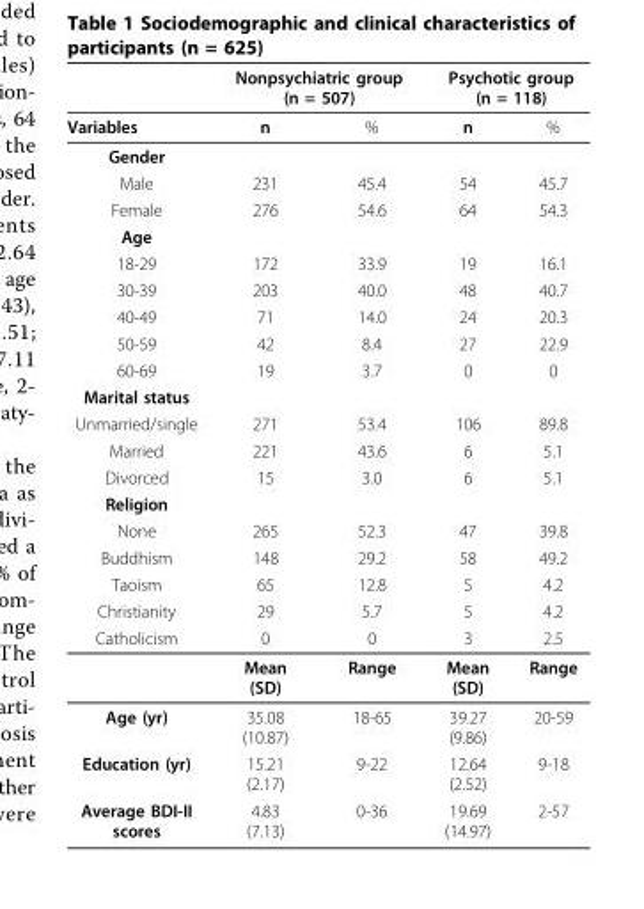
<table><thead><tr><td rowspan="2">Variables</td><td colspan="2">Nonpsychiatric group (n = 507)</td><td colspan="2">Psychotic group (n = 118)</td></tr><tr><td>n</td><td>%</td><td>n</td><td>%</td></tr></thead><tbody><tr><td colspan="5">Gender</td></tr><tr><td>Male</td><td>231</td><td>45.4</td><td>54</td><td>45.7</td></tr><tr><td>Female</td><td>276</td><td>54.6</td><td>64</td><td>54.3</td></tr><tr><td colspan="5">Age</td></tr><tr><td>18-29</td><td>172</td><td>33.9</td><td>19</td><td>16.1</td></tr><tr><td>30-39</td><td>203</td><td>40.0</td><td>48</td><td>40.7</td></tr><tr><td>40-49</td><td>71</td><td>14.0</td><td>24</td><td>20.3</td></tr><tr><td>50-59</td><td>42</td><td>8.4</td><td>27</td><td>22.9</td></tr><tr><td>60-69</td><td>19</td><td>3.7</td><td>0</td><td>0</td></tr><tr><td colspan="5">Marital status</td></tr><tr><td>Unmarried/single</td><td>271</td><td>53.4</td><td>106</td><td>89.8</td></tr><tr><td>Married</td><td>221</td><td>43.6</td><td>6</td><td>5.1</td></tr><tr><td>Divorced</td><td>15</td><td>3.0</td><td>6</td><td>5.1</td></tr><tr><td colspan="5">Religion</td></tr><tr><td>None</td><td>265</td><td>52.3</td><td>47</td><td>39.8</td></tr><tr><td>Buddhism</td><td>148</td><td>29.2</td><td>58</td><td>49.2</td></tr><tr><td>Taoism</td><td>65</td><td>12.8</td><td>5</td><td>4.2</td></tr><tr><td>Christianity</td><td>29</td><td>5.7</td><td>5</td><td>4.2</td></tr><tr><td rowspan="2">Catholicism</td><td>0</td><td>0</td><td>3</td><td>2.5</td></tr><tr><td>Mean (SD)</td><td>Range</td><td>Mean (SD)</td><td>Range</td></tr><tr><td>Age (yr)</td><td>35.08 (10.87)</td><td>18-65</td><td>39.27 (9.86)</td><td>20-59</td></tr><tr><td>Education (yr)</td><td>15.21 (2.17)</td><td>9-22</td><td>12.64 (2.52)</td><td>9-18</td></tr><tr><td>Average BDI-II scores</td><td>4.83 (7.13)</td><td>0-36</td><td>19.69 (14.97)</td><td>2-57</td></tr></tbody></table>